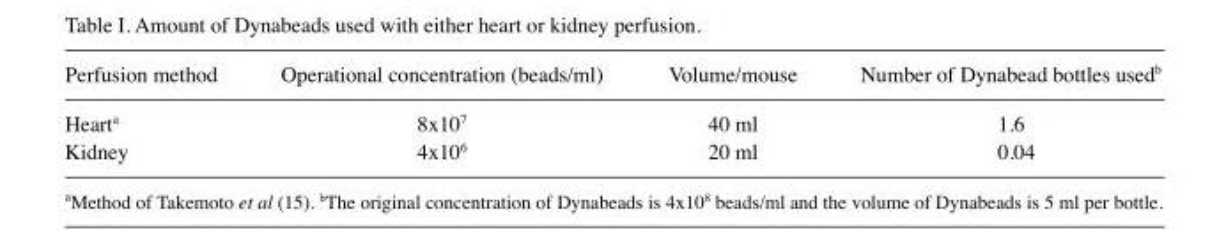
<table><thead><tr><td>Perfusion method</td><td>Operational concentration (beads/ml)</td><td>Volume/mouse</td><td>Number of Dynabead bottles used<sup>b</sup></td></tr></thead><tbody><tr><td>Heart<sup>a</sup></td><td>8x107</td><td>40 ml</td><td>1.6</td></tr><tr><td>Kidney</td><td>4x106</td><td>20 ml</td><td>0.04</td></tr></tbody></table>